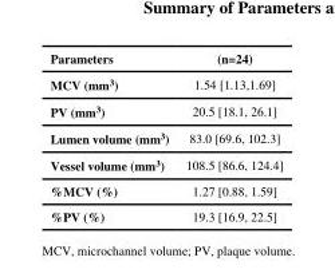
<table><thead><tr><td>Parameters</td><td>(n=24)</td></tr></thead><tbody><tr><td>MCV (mm<sup>3</sup>)</td><td>1.54 [1.13,1.69]</td></tr><tr><td>PV (mm<sup>3</sup>)</td><td>20.5 [18.1, 26.1]</td></tr><tr><td>Lumen volume (mm<sup>3</sup>)</td><td>83.0 [69.6, 102.3]</td></tr><tr><td>Vessel volume (mm<sup>3</sup>)</td><td>108.5 [86.6, 124.4]</td></tr><tr><td>%MCV (%)</td><td>1.27 [0.88, 1.59]</td></tr><tr><td>%PV (%)</td><td>19.3 [16.9, 22.5]</td></tr></tbody></table>